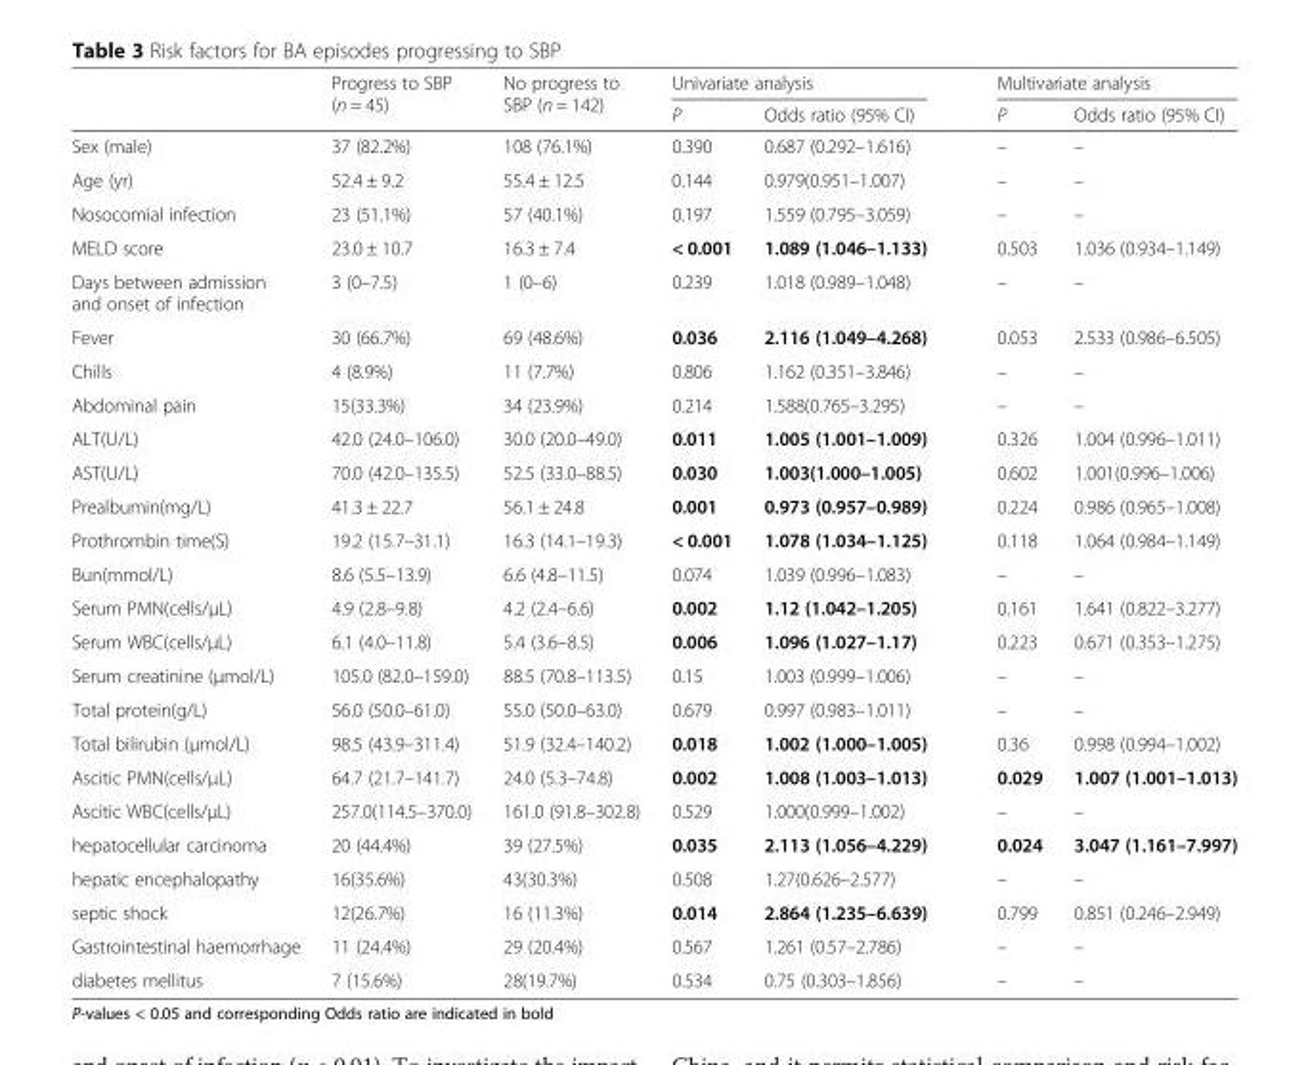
<table><thead><tr><td rowspan="2"></td><td rowspan="2">Progress to SBP (n = 45)</td><td rowspan="2">No progress to SBP (n = 142)</td><td colspan="2">Univariate analysis</td><td colspan="2">Multivariate analysis</td></tr><tr><td>P</td><td>Odds ratio (95% CI)</td><td>P</td><td>Odds ratio (95% CI)</td></tr></thead><tbody><tr><td>Sex (male)</td><td>37 (82.2%)</td><td>108 (76.1%)</td><td>0.390</td><td>0.687 (0.292–1.616)</td><td>–</td><td>–</td></tr><tr><td>Age (yr)</td><td>52.4 ± 9.2</td><td>55.4 ± 12.5</td><td>0.144</td><td>0.979(0.951–1.007)</td><td>–</td><td>–</td></tr><tr><td>Nosocomial infection</td><td>23 (51.1%)</td><td>57 (40.1%)</td><td>0.197</td><td>1.559 (0.795–3.059)</td><td>–</td><td>–</td></tr><tr><td>MELD score</td><td>23.0 ± 10.7</td><td>16.3 ± 7.4</td><td>&lt; 0.001</td><td>1.089 (1.046–1.133)</td><td>0.503</td><td>1.036 (0.934–1.149)</td></tr><tr><td>Days between admission and onset of infection</td><td>3 (0–7.5)</td><td>1 (0–6)</td><td>0.239</td><td>1.018 (0.989–1.048)</td><td>–</td><td>–</td></tr><tr><td>Fever</td><td>30 (66.7%)</td><td>69 (48.6%)</td><td>0.036</td><td>2.116 (1.049–4.268)</td><td>0.053</td><td>2.533 (0.986–6.505)</td></tr><tr><td>Chills</td><td>4 (8.9%)</td><td>11 (7.7%)</td><td>0.806</td><td>1.162 (0.351–3.846)</td><td>–</td><td>–</td></tr><tr><td>Abdominal pain</td><td>15(33.3%)</td><td>34 (23.9%)</td><td>0.214</td><td>1.588(0.765–3.295)</td><td>–</td><td>–</td></tr><tr><td>ALT(U/L)</td><td>42.0 (24.0–106.0)</td><td>30.0 (20.0–49.0)</td><td>0.011</td><td>1.005 (1.001–1.009)</td><td>0.326</td><td>1.004 (0.996–1.011)</td></tr><tr><td>AST(U/L)</td><td>70.0 (42.0–135.5)</td><td>52.5 (33.0–88.5)</td><td>0.030</td><td>1.003(1.000–1.005)</td><td>0.602</td><td>1.001(0.996–1.006)</td></tr><tr><td>Prealbumin(mg/L)</td><td>41.3 ± 22.7</td><td>56.1 ± 24.8</td><td>0.001</td><td>0.973 (0.957–0.989)</td><td>0.224</td><td>0.986 (0.965–1.008)</td></tr><tr><td>Prothrombin time(S)</td><td>19.2 (15.7–31.1)</td><td>16.3 (14.1–19.3)</td><td>&lt; 0.001</td><td>1.078 (1.034–1.125)</td><td>0.118</td><td>1.064 (0.984–1.149)</td></tr><tr><td>Bun(mmol/L)</td><td>8.6 (5.5–13.9)</td><td>6.6 (4.8–11.5)</td><td>0.074</td><td>1.039 (0.996–1.083)</td><td>–</td><td>–</td></tr><tr><td>Serum PMN(cells/μL)</td><td>4.9 (2.8–9.8)</td><td>4.2 (2.4–6.6)</td><td>0.002</td><td>1.12 (1.042–1.205)</td><td>0.161</td><td>1.641 (0.822–3.277)</td></tr><tr><td>Serum WBC(cells/μL)</td><td>6.1 (4.0–11.8)</td><td>5.4 (3.6–8.5)</td><td>0.006</td><td>1.096 (1.027–1.17)</td><td>0.223</td><td>0.671 (0.353–1.275)</td></tr><tr><td>Serum creatinine (μmol/L)</td><td>105.0 (82.0–159.0)</td><td>88.5 (70.8–113.5)</td><td>0.15</td><td>1.003 (0.999–1.006)</td><td>–</td><td>–</td></tr><tr><td>Total protein(g/L)</td><td>56.0 (50.0–61.0)</td><td>55.0 (50.0–63.0)</td><td>0.679</td><td>0.997 (0.983–1.011)</td><td>–</td><td>–</td></tr><tr><td>Total bilirubin (μmol/L)</td><td>98.5 (43.9–311.4)</td><td>51.9 (32.4–140.2)</td><td>0.018</td><td>1.002 (1.000–1.005)</td><td>0.36</td><td>0.998 (0.994–1.002)</td></tr><tr><td>Ascitic PMN(cells/μL)</td><td>64.7 (21.7–141.7)</td><td>24.0 (5.3–74.8)</td><td>0.002</td><td>1.008 (1.003–1.013)</td><td>0.029</td><td>1.007 (1.001–1.013)</td></tr><tr><td>Ascitic WBC(cells/μL)</td><td>257.0(114.5–370.0)</td><td>161.0 (91.8–302.8)</td><td>0.529</td><td>1.000(0.999–1.002)</td><td>–</td><td>–</td></tr><tr><td>hepatocellular carcinoma</td><td>20 (44.4%)</td><td>39 (27.5%)</td><td>0.035</td><td>2.113 (1.056–4.229)</td><td>0.024</td><td>3.047 (1.161–7.997)</td></tr><tr><td>hepatic encephalopathy</td><td>16(35.6%)</td><td>43(30.3%)</td><td>0.508</td><td>1.27(0.626–2.577)</td><td>–</td><td>–</td></tr><tr><td>septic shock</td><td>12(26.7%)</td><td>16 (11.3%)</td><td>0.014</td><td>2.864 (1.235–6.639)</td><td>0.799</td><td>0.851 (0.246–2.949)</td></tr><tr><td>Gastrointestinal haemorrhage</td><td>11 (24.4%)</td><td>29 (20.4%)</td><td>0.567</td><td>1.261 (0.57–2.786)</td><td>–</td><td>–</td></tr><tr><td>diabetes mellitus</td><td>7 (15.6%)</td><td>28(19.7%)</td><td>0.534</td><td>0.75 (0.303–1.856)</td><td>–</td><td>–</td></tr></tbody></table>